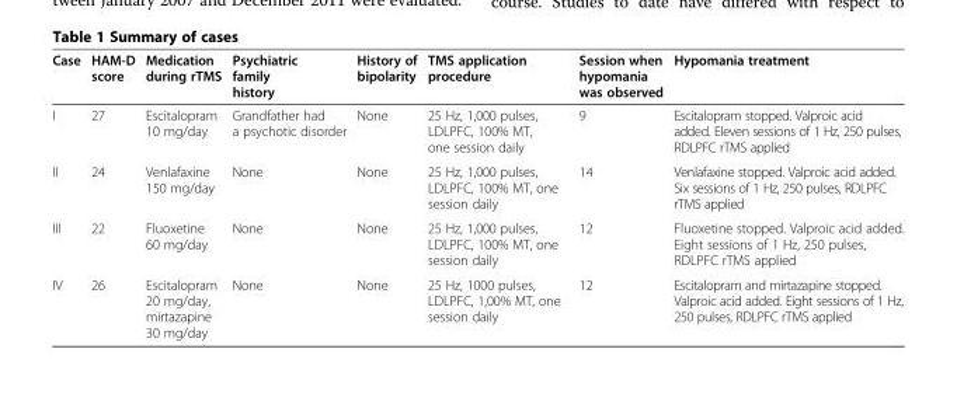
<table><thead><tr><td>Case</td><td>HAM-D score</td><td>Medication during rTMS</td><td>Psychiatric family history</td><td>History of bipolarity</td><td>TMS application procedure</td><td>Session when hypomania was observed</td><td>Hypomania treatment</td></tr></thead><tbody><tr><td>I</td><td>27</td><td>Escitalopram 10 mg/day</td><td>Grandfather had a psychotic disorder</td><td>None</td><td>25 Hz, 1,000 pulses, LDLPFC, 100% MT, one session daily</td><td>9</td><td>Escitalopram stopped. Valproic acid added. Eleven sessions of 1 Hz, 250 pulses, RDLPFC rTMS applied</td></tr><tr><td>II</td><td>24</td><td>Venlafaxine 150 mg/day</td><td>None</td><td>None</td><td>25 Hz, 1,000 pulses, LDLPFC, 100% MT, one session daily</td><td>14</td><td>Venlafaxine stopped. Valproic acid added. Six sessions of 1 Hz, 250 pulses, RDLPFC rTMS applied</td></tr><tr><td>III</td><td>22</td><td>Fluoxetine 60 mg/day</td><td>None</td><td>None</td><td>25 Hz, 1,000 pulses, LDLPFC, 100% MT, one session daily</td><td>12</td><td>Fluoxetine stopped. Valproic acid added. Eight sessions of 1 Hz, 250 pulses, RDLPFC rTMS applied</td></tr><tr><td>IV</td><td>26</td><td>Escitalopram 20 mg/day, mirtazapine 30 mg/day</td><td>None</td><td>None</td><td>25 Hz, 1000 pulses, LDLPFC, 1,00% MT, one session daily</td><td>12</td><td>Escitalopram and mirtazapine stopped. Valproic acid added. Eight sessions of 1 Hz, 250 pulses, RDLPFC rTMS applied</td></tr></tbody></table>